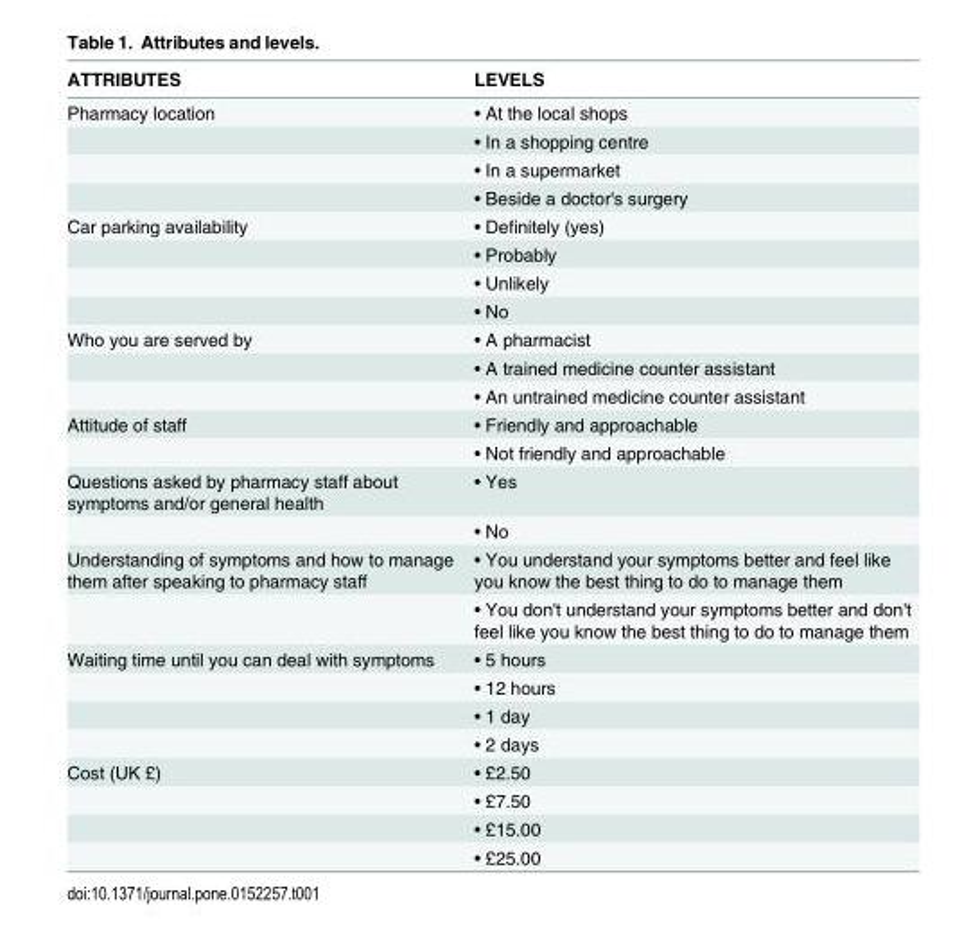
<table><thead><tr><td>ATTRIBUTES</td><td>LEVELS</td></tr></thead><tbody><tr><td rowspan="4">Pharmacy location</td><td>• At the local shops</td></tr><tr><td>• In a shopping centre</td></tr><tr><td>• In a supermarket</td></tr><tr><td>• Beside a doctor&#x27;s surgery</td></tr><tr><td rowspan="4">Car parking availability</td><td>• Definitely (yes)</td></tr><tr><td>• Probably</td></tr><tr><td>• Unlikely</td></tr><tr><td>• No</td></tr><tr><td rowspan="3">Who you are served by</td><td>• A pharmacist</td></tr><tr><td>• A trained medicine counter assistant</td></tr><tr><td>• An untrained medicine counter assistant</td></tr><tr><td rowspan="2">Attitude of staff</td><td>• Friendly and approachable</td></tr><tr><td>• Not friendly and approachable</td></tr><tr><td rowspan="2">Questions asked by pharmacy staff about symptoms and/or general health</td><td>• Yes</td></tr><tr><td>• No</td></tr><tr><td rowspan="2">Understanding of symptoms and how to manage them after speaking to pharmacy staff</td><td>• You understand your symptoms better and feel like you know the best thing to do to manage them</td></tr><tr><td>• You don&#x27;t understand your symptoms better and don&#x27;t feel like you know the best thing to do to manage them</td></tr><tr><td rowspan="4">Waiting time until you can deal with symptoms</td><td>• 5 hours</td></tr><tr><td>• 12 hours</td></tr><tr><td>• 1 day</td></tr><tr><td>• 2 days</td></tr><tr><td rowspan="4">Cost (UK £)</td><td>• £2.50</td></tr><tr><td>• £7.50</td></tr><tr><td>• £15.00</td></tr><tr><td>• £25.00</td></tr></tbody></table>